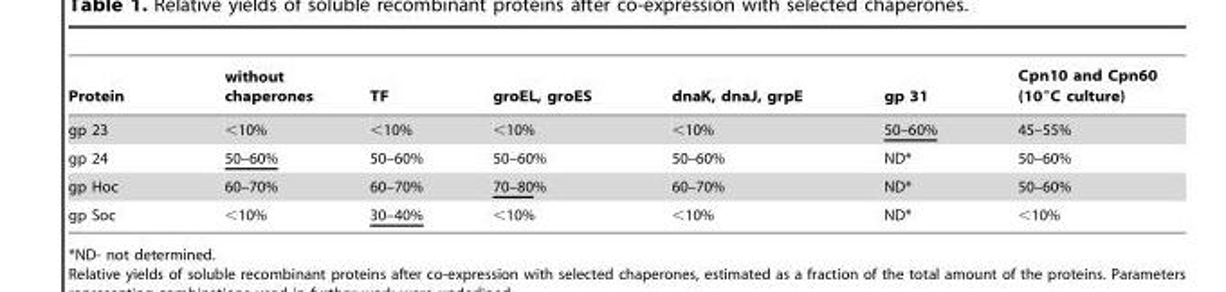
<table><thead><tr><td>Protein</td><td>without chaperones</td><td>TF</td><td>groEL, groES</td><td>dnaK, dnaJ, grpE</td><td>gp 31</td><td>Cpn10 and Cpn60 (10°C culture)</td></tr></thead><tbody><tr><td>gp 23</td><td>&lt;10%</td><td>&lt;10%</td><td>&lt;10%</td><td>&lt;10%</td><td>50–60%</td><td>45–55%</td></tr><tr><td>gp 24</td><td>50–60%</td><td>50–60%</td><td>50–60%</td><td>50–60%</td><td>ND*</td><td>50–60%</td></tr><tr><td>gp Hoc</td><td>60–70%</td><td>60–70%</td><td>70–80%</td><td>60–70%</td><td>ND*</td><td>50–60%</td></tr><tr><td>gp Soc</td><td>&lt;10%</td><td>30–40%</td><td>&lt;10%</td><td>&lt;10%</td><td>ND*</td><td>&lt;10%</td></tr></tbody></table>